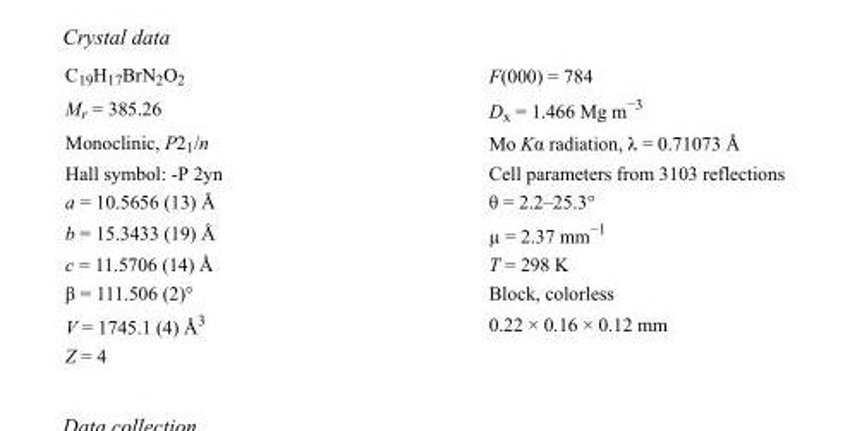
<table><tbody><tr><td>C<sub>19</sub>H<sub>17</sub>BrN<sub>2</sub>O<sub>2</sub></td><td>F(000) = 784</td></tr><tr><td>M<sub>r</sub> = 385.26</td><td>D<sub>x</sub> = 1.466 Mg m<sup>−3</sup></td></tr><tr><td>Monoclinic, P2<sub>1</sub>/n</td><td>Mo Kα radiation, λ = 0.71073 Å</td></tr><tr><td>Hall symbol: -P 2yn</td><td>Cell parameters from 3103 reflections</td></tr><tr><td>a = 10.5656 (13) Å</td><td>θ = 2.2–25.3°</td></tr><tr><td>b = 15.3433 (19) Å</td><td>µ = 2.37 mm<sup>−1</sup></td></tr><tr><td>c = 11.5706 (14) Å</td><td>T = 298 K</td></tr><tr><td>β = 111.506 (2)°</td><td>Block, colorless</td></tr><tr><td>V = 1745.1 (4) Å<sup>3</sup></td><td>0.22 × 0.16 × 0.12 mm</td></tr><tr><td>Z = 4</td><td></td></tr></tbody></table>